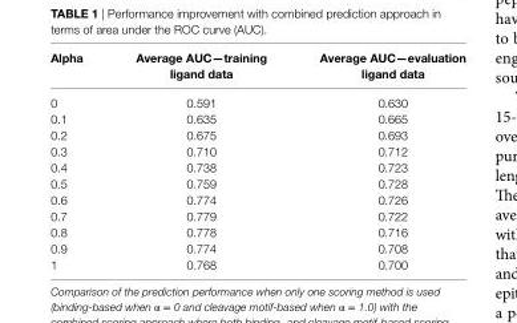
<table><thead><tr><td>alpha</td><td>average aUc—training ligand data</td><td>average aUc—evaluation ligand data</td></tr></thead><tbody><tr><td>0</td><td>0.591</td><td>0.630</td></tr><tr><td>0.1</td><td>0.635</td><td>0.665</td></tr><tr><td>0.2</td><td>0.675</td><td>0.693</td></tr><tr><td>0.3</td><td>0.710</td><td>0.712</td></tr><tr><td>0.4</td><td>0.738</td><td>0.723</td></tr><tr><td>0.5</td><td>0.759</td><td>0.728</td></tr><tr><td>0.6</td><td>0.774</td><td>0.726</td></tr><tr><td>0.7</td><td>0.779</td><td>0.722</td></tr><tr><td>0.8</td><td>0.778</td><td>0.716</td></tr><tr><td>0.9</td><td>0.774</td><td>0.708</td></tr><tr><td>1</td><td>0.768</td><td>0.700</td></tr></tbody></table>